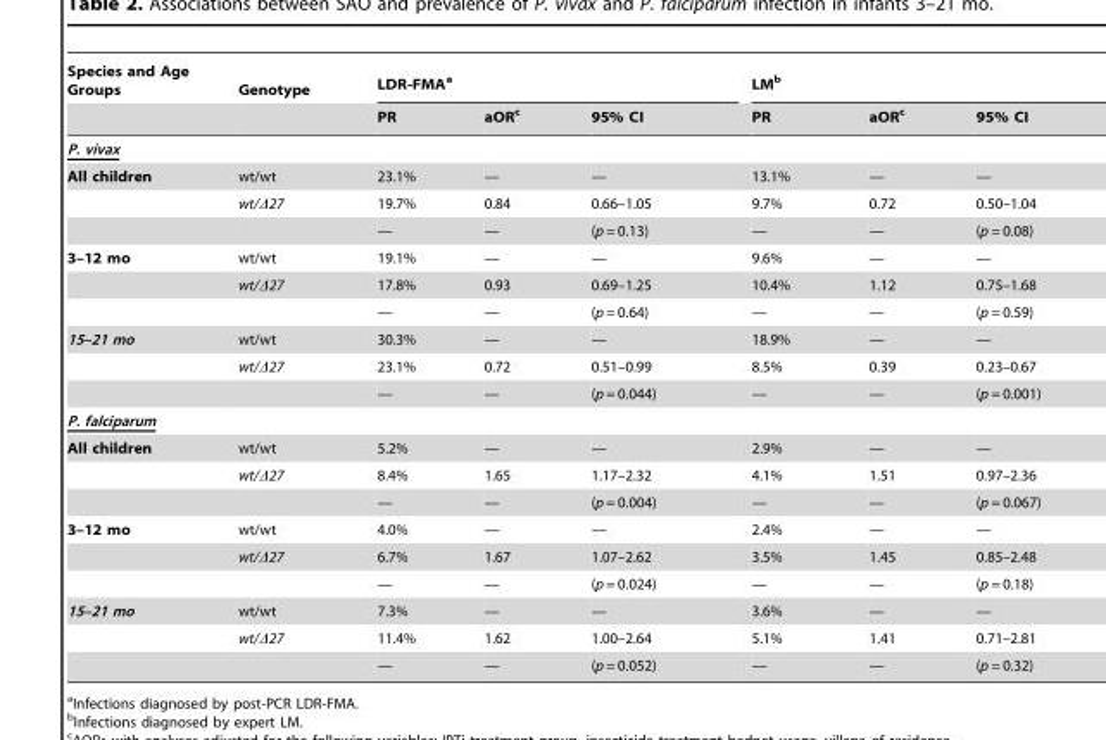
<table><thead><tr><td rowspan="2">Species and Age Groups</td><td rowspan="2">Genotype</td><td colspan="3">LDR-FMA<sup>a</sup></td><td colspan="3">LM<sup>b</sup></td></tr><tr><td>PR</td><td>aOR<sup>c</sup></td><td>95% CI</td><td>PR</td><td>aOR<sup>c</sup></td><td>95% CI</td></tr></thead><tbody><tr><td colspan="8">P. vivax</td></tr><tr><td rowspan="3">All children</td><td>wt/wt</td><td>23.1%</td><td>—</td><td>—</td><td>13.1%</td><td>—</td><td>—</td></tr><tr><td>wt/Δ27</td><td>19.7%</td><td>0.84</td><td>0.66–1.05</td><td>9.7%</td><td>0.72</td><td>0.50–1.04</td></tr><tr><td></td><td>—</td><td>—</td><td>(p = 0.13)</td><td>—</td><td>—</td><td>(p = 0.08)</td></tr><tr><td rowspan="3">3–12 mo</td><td>wt/wt</td><td>19.1%</td><td>—</td><td>—</td><td>9.6%</td><td>—</td><td>—</td></tr><tr><td>wt/Δ27</td><td>17.8%</td><td>0.93</td><td>0.69–1.25</td><td>10.4%</td><td>1.12</td><td>0.75–1.68</td></tr><tr><td></td><td>—</td><td>—</td><td>(p = 0.64)</td><td>—</td><td>—</td><td>(p = 0.59)</td></tr><tr><td rowspan="3">15–21 mo</td><td>wt/wt</td><td>30.3%</td><td>—</td><td>—</td><td>18.9%</td><td>—</td><td>—</td></tr><tr><td>wt/Δ27</td><td>23.1%</td><td>0.72</td><td>0.51–0.99</td><td>8.5%</td><td>0.39</td><td>0.23–0.67</td></tr><tr><td></td><td>—</td><td>—</td><td>(p = 0.044)</td><td>—</td><td>—</td><td>(p = 0.001)</td></tr><tr><td colspan="8">P. falciparum</td></tr><tr><td rowspan="3">All children</td><td>wt/wt</td><td>5.2%</td><td>—</td><td>—</td><td>2.9%</td><td>—</td><td>—</td></tr><tr><td>wt/Δ27</td><td>8.4%</td><td>1.65</td><td>1.17–2.32</td><td>4.1%</td><td>1.51</td><td>0.97–2.36</td></tr><tr><td></td><td>—</td><td>—</td><td>(p = 0.004)</td><td>—</td><td>—</td><td>(p = 0.067)</td></tr><tr><td rowspan="3">3–12 mo</td><td>wt/wt</td><td>4.0%</td><td>—</td><td>—</td><td>2.4%</td><td>—</td><td>—</td></tr><tr><td>wt/Δ27</td><td>6.7%</td><td>1.67</td><td>1.07–2.62</td><td>3.5%</td><td>1.45</td><td>0.85–2.48</td></tr><tr><td></td><td>—</td><td>—</td><td>(p = 0.024)</td><td>—</td><td>—</td><td>(p = 0.18)</td></tr><tr><td rowspan="3">15–21 mo</td><td>wt/wt</td><td>7.3%</td><td>—</td><td>—</td><td>3.6%</td><td>—</td><td>—</td></tr><tr><td>wt/Δ27</td><td>11.4%</td><td>1.62</td><td>1.00–2.64</td><td>5.1%</td><td>1.41</td><td>0.71–2.81</td></tr><tr><td></td><td>—</td><td>—</td><td>(p = 0.052)</td><td>—</td><td>—</td><td>(p = 0.32)</td></tr></tbody></table>